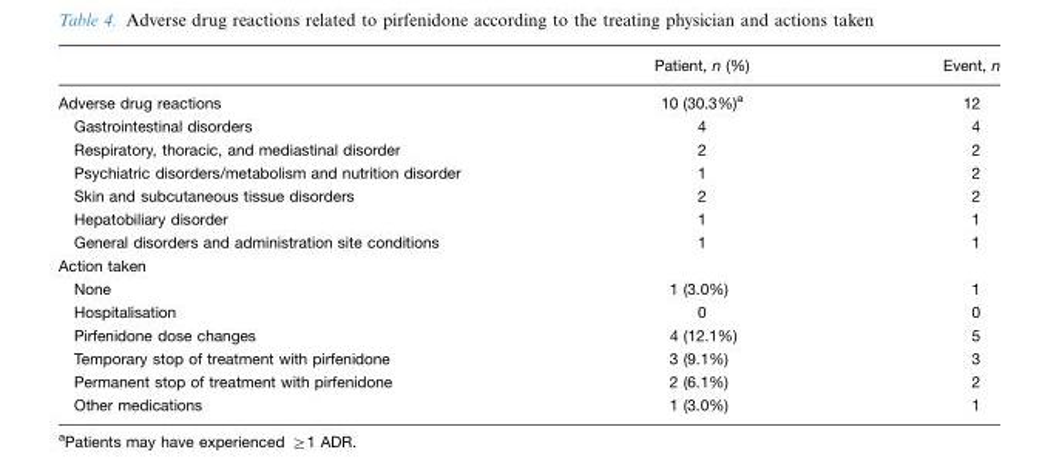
<table><thead><tr><td></td><td>Patient, n (%)</td><td>Event, n</td></tr></thead><tbody><tr><td>Adverse drug reactions</td><td>10 (30.3%)<sup>a</sup></td><td>12</td></tr><tr><td>Gastrointestinal disorders</td><td>4</td><td>4</td></tr><tr><td>Respiratory, thoracic, and mediastinal disorder</td><td>2</td><td>2</td></tr><tr><td>Psychiatric disorders/metabolism and nutrition disorder</td><td>1</td><td>2</td></tr><tr><td>Skin and subcutaneous tissue disorders</td><td>2</td><td>2</td></tr><tr><td>Hepatobiliary disorder</td><td>1</td><td>1</td></tr><tr><td>General disorders and administration site conditions</td><td>1</td><td>1</td></tr><tr><td colspan="3">Action taken</td></tr><tr><td>None</td><td>1 (3.0%)</td><td>1</td></tr><tr><td>Hospitalisation</td><td>0</td><td>0</td></tr><tr><td>Pirfenidone dose changes</td><td>4 (12.1%)</td><td>5</td></tr><tr><td>Temporary stop of treatment with pirfenidone</td><td>3 (9.1%)</td><td>3</td></tr><tr><td>Permanent stop of treatment with pirfenidone</td><td>2 (6.1%)</td><td>2</td></tr><tr><td>Other medications</td><td>1 (3.0%)</td><td>1</td></tr></tbody></table>